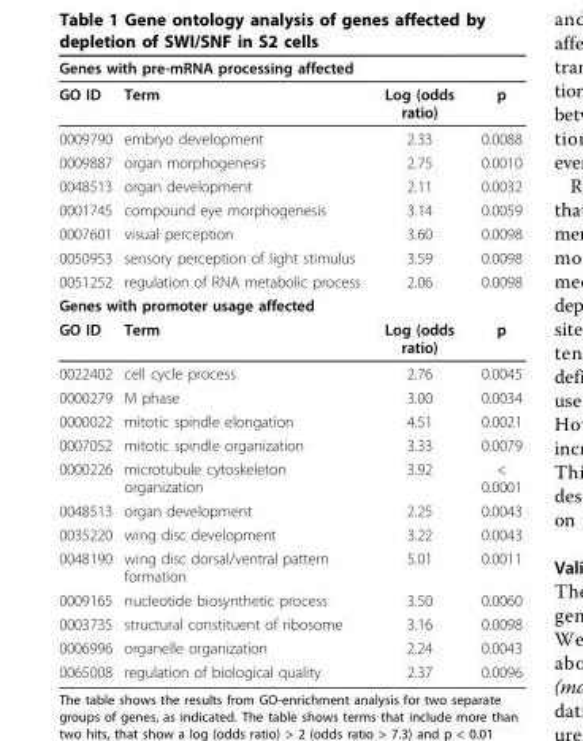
<table><thead><tr><td colspan="2">Genes with pre-mRNA processing affected</td><td rowspan="2">Log (odds ratio)</td><td rowspan="2">p</td></tr><tr><td>GO ID</td><td>Term</td></tr></thead><tbody><tr><td>0009790</td><td>embryo development</td><td>2.33</td><td>0.0088</td></tr><tr><td>0009887</td><td>organ morphogenesis</td><td>2.75</td><td>0.0010</td></tr><tr><td>0048513</td><td>organ development</td><td>2.11</td><td>0.0032</td></tr><tr><td>0001745</td><td>compound eye morphogenesis</td><td>3.14</td><td>0.0059</td></tr><tr><td>0007601</td><td>visual perception</td><td>3.60</td><td>0.0098</td></tr><tr><td>0050953</td><td>sensory perception of light stimulus</td><td>3.59</td><td>0.0098</td></tr><tr><td>0051252</td><td>regulation of RNA metabolic process</td><td>2.06</td><td>0.0098</td></tr><tr><td colspan="4">Genes with promoter usage affected</td></tr><tr><td>GO ID</td><td>Term</td><td>Log (odds ratio)</td><td>p</td></tr><tr><td>0022402</td><td>cell cycle process</td><td>2.76</td><td>0.0045</td></tr><tr><td>0000279</td><td>M phase</td><td>3.00</td><td>0.0034</td></tr><tr><td>0000022</td><td>mitotic spindle elongation</td><td>4.51</td><td>0.0021</td></tr><tr><td>0007052</td><td>mitotic spindle organization</td><td>3.33</td><td>0.0079</td></tr><tr><td>0000226</td><td>microtubule cytoskeleton organization</td><td>3.92</td><td>&lt; 0.0001</td></tr><tr><td>0048513</td><td>organ development</td><td>2.25</td><td>0.0043</td></tr><tr><td>0035220</td><td>wing disc development</td><td>3.22</td><td>0.0043</td></tr><tr><td>0048190</td><td>wing disc dorsal/ventral pattern formation</td><td>5.01</td><td>0.0011</td></tr><tr><td>0009165</td><td>nucleotide biosynthetic process</td><td>3.50</td><td>0.0060</td></tr><tr><td>0003735</td><td>structural constituent of ribosome</td><td>3.16</td><td>0.0098</td></tr><tr><td>0006996</td><td>organelle organization</td><td>2.24</td><td>0.0043</td></tr><tr><td>0065008</td><td>regulation of biological quality</td><td>2.37</td><td>0.0096</td></tr></tbody></table>